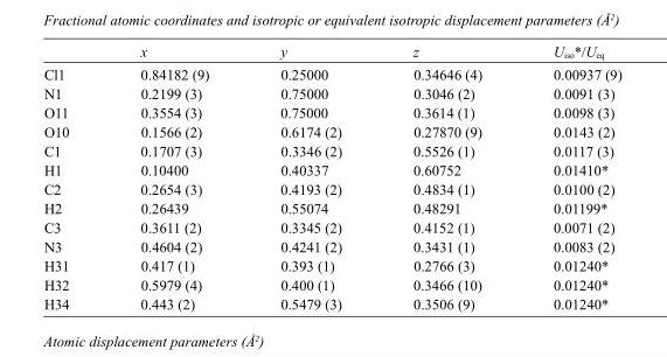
<table><thead><tr><td></td><td>x</td><td>y</td><td>z</td><td>U<sub>iso</sub>*/U<sub>eq</sub></td></tr></thead><tbody><tr><td>Cl1</td><td>0.84182 (9)</td><td>0.25000</td><td>0.34646 (4)</td><td>0.00937 (9)</td></tr><tr><td>N1</td><td>0.2199 (3)</td><td>0.75000</td><td>0.3046 (2)</td><td>0.0091 (3)</td></tr><tr><td>O11</td><td>0.3554 (3)</td><td>0.75000</td><td>0.3614 (1)</td><td>0.0098 (3)</td></tr><tr><td>O10</td><td>0.1566 (2)</td><td>0.6174 (2)</td><td>0.27870 (9)</td><td>0.0143 (2)</td></tr><tr><td>C1</td><td>0.1707 (3)</td><td>0.3346 (2)</td><td>0.5526 (1)</td><td>0.0117 (3)</td></tr><tr><td>H1</td><td>0.10400</td><td>0.40337</td><td>0.60752</td><td>0.01410*</td></tr><tr><td>C2</td><td>0.2654 (3)</td><td>0.4193 (2)</td><td>0.4834 (1)</td><td>0.0100 (2)</td></tr><tr><td>H2</td><td>0.26439</td><td>0.55074</td><td>0.48291</td><td>0.01199*</td></tr><tr><td>C3</td><td>0.3611 (2)</td><td>0.3345 (2)</td><td>0.4152 (1)</td><td>0.0071 (2)</td></tr><tr><td>N3</td><td>0.4604 (2)</td><td>0.4241 (2)</td><td>0.3431 (1)</td><td>0.0083 (2)</td></tr><tr><td>H31</td><td>0.417 (1)</td><td>0.393 (1)</td><td>0.2766 (3)</td><td>0.01240*</td></tr><tr><td>H32</td><td>0.5979 (4)</td><td>0.400 (1)</td><td>0.3466 (10)</td><td>0.01240*</td></tr><tr><td>H34</td><td>0.443 (2)</td><td>0.5479 (3)</td><td>0.3506 (9)</td><td>0.01240*</td></tr></tbody></table>